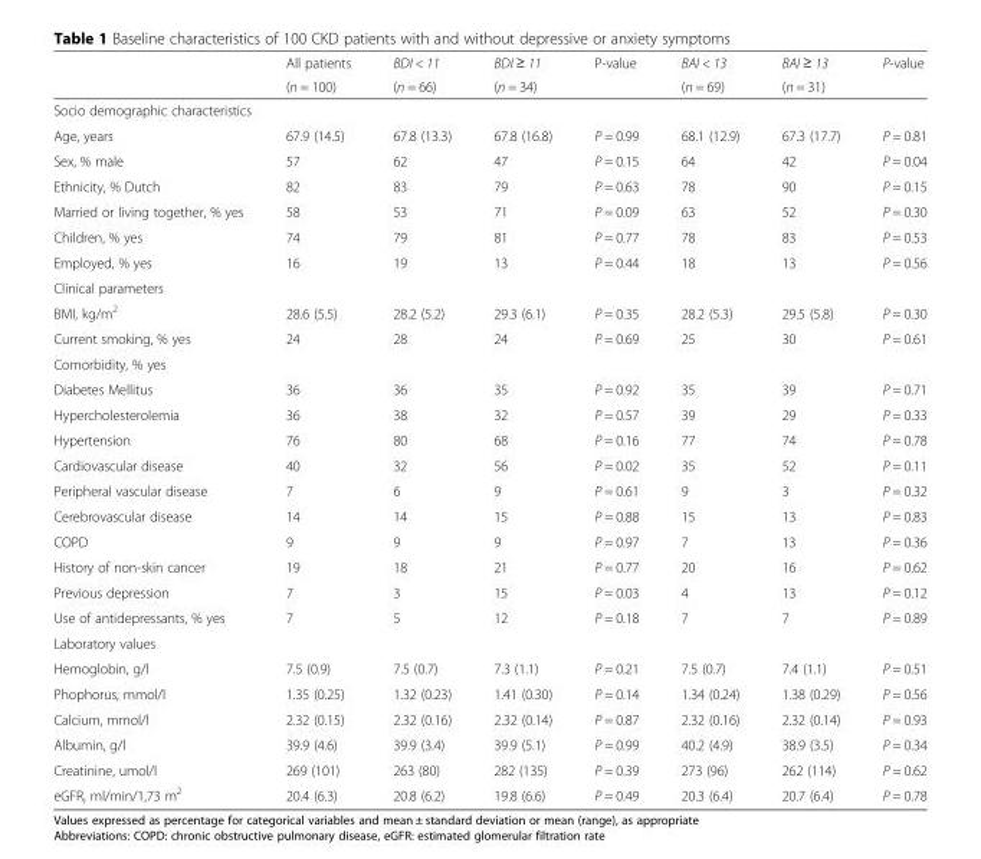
<table><thead><tr><td rowspan="2"></td><td rowspan="2">All patients (n = 100)</td><td rowspan="2">BDI &lt; 11 (n = 66)</td><td rowspan="2">BDI ≥ 11 (n = 34)</td><td rowspan="2">P-value</td><td rowspan="2">BAI &lt; 13 (n = 69)</td><td rowspan="2">BAI ≥ 13 (n = 31)</td><td rowspan="2">P-value</td></tr><tr></tr></thead><tbody><tr><td colspan="8">Socio demographic characteristics</td></tr><tr><td>Age, years</td><td>67.9 (14.5)</td><td>67.8 (13.3)</td><td>67.8 (16.8)</td><td>P = 0.99</td><td>68.1 (12.9)</td><td>67.3 (17.7)</td><td>P = 0.81</td></tr><tr><td>Sex, % male</td><td>57</td><td>62</td><td>47</td><td>P = 0.15</td><td>64</td><td>42</td><td>P = 0.04</td></tr><tr><td>Ethnicity, % Dutch</td><td>82</td><td>83</td><td>79</td><td>P = 0.63</td><td>78</td><td>90</td><td>P = 0.15</td></tr><tr><td>Married or living together, % yes</td><td>58</td><td>53</td><td>71</td><td>P = 0.09</td><td>63</td><td>52</td><td>P = 0.30</td></tr><tr><td>Children, % yes</td><td>74</td><td>79</td><td>81</td><td>P = 0.77</td><td>78</td><td>83</td><td>P = 0.53</td></tr><tr><td>Employed, % yes</td><td>16</td><td>19</td><td>13</td><td>P = 0.44</td><td>18</td><td>13</td><td>P = 0.56</td></tr><tr><td colspan="8">Clinical parameters</td></tr><tr><td>BMI, kg/m<sup>2</sup></td><td>28.6 (5.5)</td><td>28.2 (5.2)</td><td>29.3 (6.1)</td><td>P = 0.35</td><td>28.2 (5.3)</td><td>29.5 (5.8)</td><td>P = 0.30</td></tr><tr><td>Current smoking, % yes</td><td>24</td><td>28</td><td>24</td><td>P = 0.69</td><td>25</td><td>30</td><td>P = 0.61</td></tr><tr><td colspan="8">Comorbidity, % yes</td></tr><tr><td>Diabetes Mellitus</td><td>36</td><td>36</td><td>35</td><td>P = 0.92</td><td>35</td><td>39</td><td>P = 0.71</td></tr><tr><td>Hypercholesterolemia</td><td>36</td><td>38</td><td>32</td><td>P = 0.57</td><td>39</td><td>29</td><td>P = 0.33</td></tr><tr><td>Hypertension</td><td>76</td><td>80</td><td>68</td><td>P = 0.16</td><td>77</td><td>74</td><td>P = 0.78</td></tr><tr><td>Cardiovascular disease</td><td>40</td><td>32</td><td>56</td><td>P = 0.02</td><td>35</td><td>52</td><td>P = 0.11</td></tr><tr><td>Peripheral vascular disease</td><td>7</td><td>6</td><td>9</td><td>P = 0.61</td><td>9</td><td>3</td><td>P = 0.32</td></tr><tr><td>Cerebrovascular disease</td><td>14</td><td>14</td><td>15</td><td>P = 0.88</td><td>15</td><td>13</td><td>P = 0.83</td></tr><tr><td>COPD</td><td>9</td><td>9</td><td>9</td><td>P = 0.97</td><td>7</td><td>13</td><td>P = 0.36</td></tr><tr><td>History of non-skin cancer</td><td>19</td><td>18</td><td>21</td><td>P = 0.77</td><td>20</td><td>16</td><td>P = 0.62</td></tr><tr><td>Previous depression</td><td>7</td><td>3</td><td>15</td><td>P = 0.03</td><td>4</td><td>13</td><td>P = 0.12</td></tr><tr><td>Use of antidepressants, % yes</td><td>7</td><td>5</td><td>12</td><td>P = 0.18</td><td>7</td><td>7</td><td>P = 0.89</td></tr><tr><td colspan="8">Laboratory values</td></tr><tr><td>Hemoglobin, g/l</td><td>7.5 (0.9)</td><td>7.5 (0.7)</td><td>7.3 (1.1)</td><td>P = 0.21</td><td>7.5 (0.7)</td><td>7.4 (1.1)</td><td>P = 0.51</td></tr><tr><td>Phophorus, mmol/l</td><td>1.35 (0.25)</td><td>1.32 (0.23)</td><td>1.41 (0.30)</td><td>P = 0.14</td><td>1.34 (0.24)</td><td>1.38 (0.29)</td><td>P = 0.56</td></tr><tr><td>Calcium, mmol/l</td><td>2.32 (0.15)</td><td>2.32 (0.16)</td><td>2.32 (0.14)</td><td>P = 0.87</td><td>2.32 (0.16)</td><td>2.32 (0.14)</td><td>P = 0.93</td></tr><tr><td>Albumin, g/l</td><td>39.9 (4.6)</td><td>39.9 (3.4)</td><td>39.9 (5.1)</td><td>P = 0.99</td><td>40.2 (4.9)</td><td>38.9 (3.5)</td><td>P = 0.34</td></tr><tr><td>Creatinine, umol/l</td><td>269 (101)</td><td>263 (80)</td><td>282 (135)</td><td>P = 0.39</td><td>273 (96)</td><td>262 (114)</td><td>P = 0.62</td></tr><tr><td>eGFR, ml/min/1,73 m<sup>2</sup></td><td>20.4 (6.3)</td><td>20.8 (6.2)</td><td>19.8 (6.6)</td><td>P = 0.49</td><td>20.3 (6.4)</td><td>20.7 (6.4)</td><td>P = 0.78</td></tr></tbody></table>